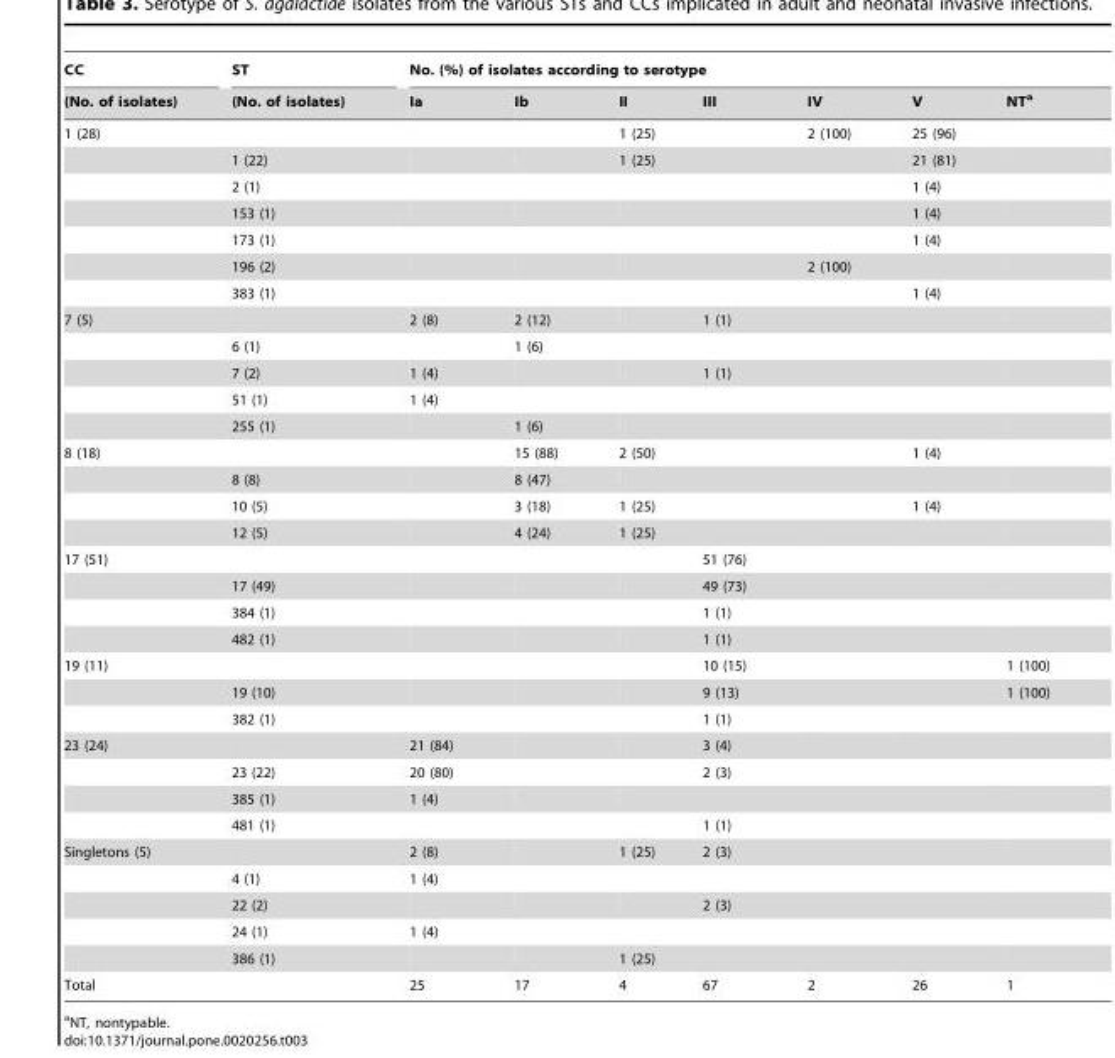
<table><thead><tr><td rowspan="2">CC (No. of isolates)</td><td rowspan="2">ST (No. of isolates)</td><td colspan="7">No. (%) of isolates according to serotype</td></tr><tr><td>Ia</td><td>Ib</td><td>II</td><td>III</td><td>IV</td><td>V</td><td>NT<sup>a</sup></td></tr></thead><tbody><tr><td rowspan="7">1 (28)</td><td></td><td></td><td></td><td>1 (25)</td><td></td><td>2 (100)</td><td>25 (96)</td><td></td></tr><tr><td>1 (22)</td><td></td><td></td><td>1 (25)</td><td></td><td></td><td>21 (81)</td><td></td></tr><tr><td>2 (1)</td><td></td><td></td><td></td><td></td><td></td><td>1 (4)</td><td></td></tr><tr><td>153 (1)</td><td></td><td></td><td></td><td></td><td></td><td>1 (4)</td><td></td></tr><tr><td>173 (1)</td><td></td><td></td><td></td><td></td><td></td><td>1 (4)</td><td></td></tr><tr><td>196 (2)</td><td></td><td></td><td></td><td></td><td>2 (100)</td><td></td><td></td></tr><tr><td>383 (1)</td><td></td><td></td><td></td><td></td><td></td><td>1 (4)</td><td></td></tr><tr><td rowspan="5">7 (5)</td><td></td><td>2 (8)</td><td>2 (12)</td><td></td><td>1 (1)</td><td></td><td></td><td></td></tr><tr><td>6 (1)</td><td></td><td>1 (6)</td><td></td><td></td><td></td><td></td><td></td></tr><tr><td>7 (2)</td><td>1 (4)</td><td></td><td></td><td>1 (1)</td><td></td><td></td><td></td></tr><tr><td>51 (1)</td><td>1 (4)</td><td></td><td></td><td></td><td></td><td></td><td></td></tr><tr><td>255 (1)</td><td></td><td>1 (6)</td><td></td><td></td><td></td><td></td><td></td></tr><tr><td rowspan="4">8 (18)</td><td></td><td></td><td>15 (88)</td><td>2 (50)</td><td></td><td></td><td>1 (4)</td><td></td></tr><tr><td>8 (8)</td><td></td><td>8 (47)</td><td></td><td></td><td></td><td></td><td></td></tr><tr><td>10 (5)</td><td></td><td>3 (18)</td><td>1 (25)</td><td></td><td></td><td>1 (4)</td><td></td></tr><tr><td>12 (5)</td><td></td><td>4 (24)</td><td>1 (25)</td><td></td><td></td><td></td><td></td></tr><tr><td rowspan="4">17 (51)</td><td></td><td></td><td></td><td></td><td>51 (76)</td><td></td><td></td><td></td></tr><tr><td>17 (49)</td><td></td><td></td><td></td><td>49 (73)</td><td></td><td></td><td></td></tr><tr><td>384 (1)</td><td></td><td></td><td></td><td>1 (1)</td><td></td><td></td><td></td></tr><tr><td>482 (1)</td><td></td><td></td><td></td><td>1 (1)</td><td></td><td></td><td></td></tr><tr><td rowspan="3">19 (11)</td><td></td><td></td><td></td><td></td><td>10 (15)</td><td></td><td></td><td>1 (100)</td></tr><tr><td>19 (10)</td><td></td><td></td><td></td><td>9 (13)</td><td></td><td></td><td>1 (100)</td></tr><tr><td>382 (1)</td><td></td><td></td><td></td><td>1 (1)</td><td></td><td></td><td></td></tr><tr><td rowspan="4">23 (24)</td><td></td><td>21 (84)</td><td></td><td></td><td>3 (4)</td><td></td><td></td><td></td></tr><tr><td>23 (22)</td><td>20 (80)</td><td></td><td></td><td>2 (3)</td><td></td><td></td><td></td></tr><tr><td>385 (1)</td><td>1 (4)</td><td></td><td></td><td></td><td></td><td></td><td></td></tr><tr><td>481 (1)</td><td></td><td></td><td></td><td>1 (1)</td><td></td><td></td><td></td></tr><tr><td rowspan="5">Singletons (5)</td><td></td><td>2 (8)</td><td></td><td>1 (25)</td><td>2 (3)</td><td></td><td></td><td></td></tr><tr><td>4 (1)</td><td>1 (4)</td><td></td><td></td><td></td><td></td><td></td><td></td></tr><tr><td>22 (2)</td><td></td><td></td><td></td><td>2 (3)</td><td></td><td></td><td></td></tr><tr><td>24 (1)</td><td>1 (4)</td><td></td><td></td><td></td><td></td><td></td><td></td></tr><tr><td>386 (1)</td><td></td><td></td><td>1 (25)</td><td></td><td></td><td></td><td></td></tr><tr><td>Total</td><td></td><td>25</td><td>17</td><td>4</td><td>67</td><td>2</td><td>26</td><td>1</td></tr></tbody></table>